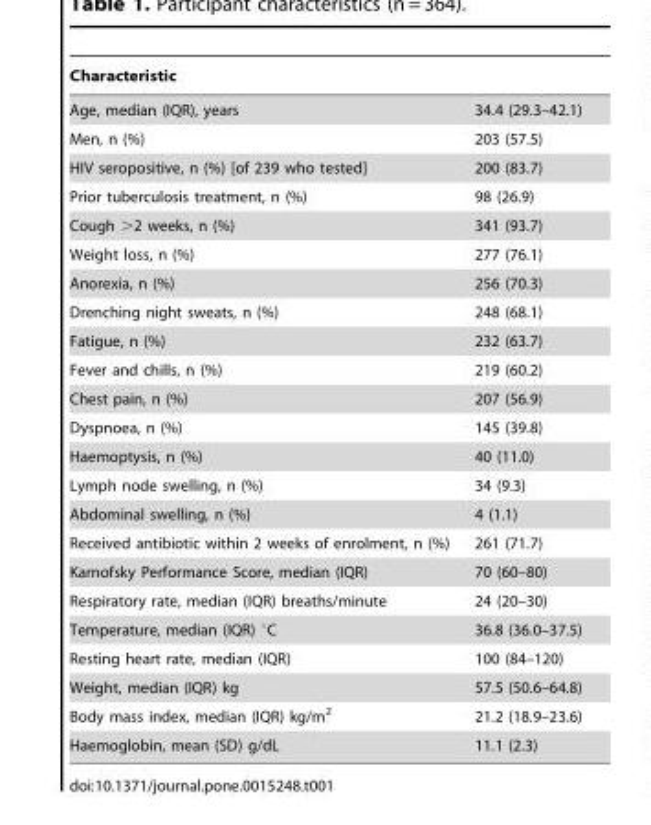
<table><thead><tr><td>Characteristic</td><td></td></tr></thead><tbody><tr><td>Age, median (IQR), years</td><td>34.4 (29.3–42.1)</td></tr><tr><td>Men, n (%)</td><td>203 (57.5)</td></tr><tr><td>HIV seropositive, n (%) [of 239 who tested]</td><td>200 (83.7)</td></tr><tr><td>Prior tuberculosis treatment, n (%)</td><td>98 (26.9)</td></tr><tr><td>Cough &gt;2 weeks, n (%)</td><td>341 (93.7)</td></tr><tr><td>Weight loss, n (%)</td><td>277 (76.1)</td></tr><tr><td>Anorexia, n (%)</td><td>256 (70.3)</td></tr><tr><td>Drenching night sweats, n (%)</td><td>248 (68.1)</td></tr><tr><td>Fatigue, n (%)</td><td>232 (63.7)</td></tr><tr><td>Fever and chills, n (%)</td><td>219 (60.2)</td></tr><tr><td>Chest pain, n (%)</td><td>207 (56.9)</td></tr><tr><td>Dyspnoea, n (%)</td><td>145 (39.8)</td></tr><tr><td>Haemoptysis, n (%)</td><td>40 (11.0)</td></tr><tr><td>Lymph node swelling, n (%)</td><td>34 (9.3)</td></tr><tr><td>Abdominal swelling, n (%)</td><td>4 (1.1)</td></tr><tr><td>Received antibiotic within 2 weeks of enrolment, n (%)</td><td>261 (71.7)</td></tr><tr><td>Karnofsky Performance Score, median (IQR)</td><td>70 (60–80)</td></tr><tr><td>Respiratory rate, median (IQR) breaths/minute</td><td>24 (20–30)</td></tr><tr><td>Temperature, median (IQR) °C</td><td>36.8 (36.0–37.5)</td></tr><tr><td>Resting heart rate, median (IQR)</td><td>100 (84–120)</td></tr><tr><td>Weight, median (IQR) kg</td><td>57.5 (50.6–64.8)</td></tr><tr><td>Body mass index, median (IQR) kg/m<sup>2</sup></td><td>21.2 (18.9–23.6)</td></tr><tr><td>Haemoglobin, mean (SD) g/dL</td><td>11.1 (2.3)</td></tr></tbody></table>